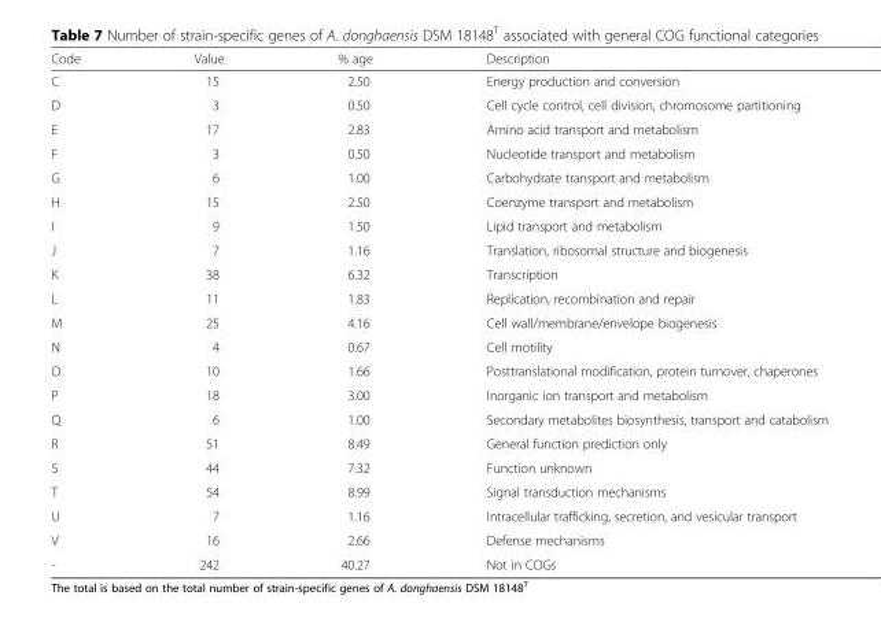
<table><thead><tr><td>Code</td><td>Value</td><td>% age</td><td>Description</td></tr></thead><tbody><tr><td>C</td><td>15</td><td>2.50</td><td>Energy production and conversion</td></tr><tr><td>D</td><td>3</td><td>0.50</td><td>Cell cycle control, cell division, chromosome partitioning</td></tr><tr><td>E</td><td>17</td><td>2.83</td><td>Amino acid transport and metabolism</td></tr><tr><td>F</td><td>3</td><td>0.50</td><td>Nucleotide transport and metabolism</td></tr><tr><td>G</td><td>6</td><td>1.00</td><td>Carbohydrate transport and metabolism</td></tr><tr><td>H</td><td>15</td><td>2.50</td><td>Coenzyme transport and metabolism</td></tr><tr><td>I</td><td>9</td><td>1.50</td><td>Lipid transport and metabolism</td></tr><tr><td>J</td><td>7</td><td>1.16</td><td>Translation, ribosomal structure and biogenesis</td></tr><tr><td>K</td><td>38</td><td>6.32</td><td>Transcription</td></tr><tr><td>L</td><td>11</td><td>1.83</td><td>Replication, recombination and repair</td></tr><tr><td>M</td><td>25</td><td>4.16</td><td>Cell wall/membrane/envelope biogenesis</td></tr><tr><td>N</td><td>4</td><td>0.67</td><td>Cell motility</td></tr><tr><td>O</td><td>10</td><td>1.66</td><td>Posttranslational modification, protein turnover, chaperones</td></tr><tr><td>P</td><td>18</td><td>3.00</td><td>Inorganic ion transport and metabolism</td></tr><tr><td>Q</td><td>6</td><td>1.00</td><td>Secondary metabolites biosynthesis, transport and catabolism</td></tr><tr><td>R</td><td>51</td><td>8.49</td><td>General function prediction only</td></tr><tr><td>S</td><td>44</td><td>7.32</td><td>Function unknown</td></tr><tr><td>T</td><td>54</td><td>8.99</td><td>Signal transduction mechanisms</td></tr><tr><td>U</td><td>7</td><td>1.16</td><td>Intracellular trafficking, secretion, and vesicular transport</td></tr><tr><td>V</td><td>16</td><td>2.66</td><td>Defense mechanisms</td></tr><tr><td>-</td><td>242</td><td>40.27</td><td>Not in COGs</td></tr></tbody></table>